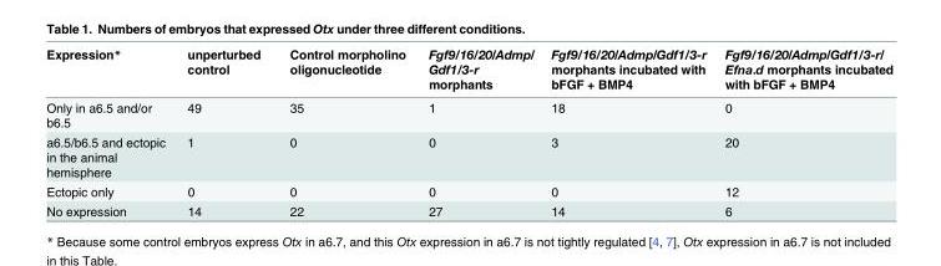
<table><thead><tr><td>Expression*</td><td>unperturbed control</td><td>Control morpholino oligonucleotide</td><td>Fgf9/16/20/Admp/ Gdf1/3-r morphants</td><td>Fgf9/16/20/Admp/Gdf1/3-r morphants incubated with bFGF + BMP4</td><td>Fgf9/16/20/Admp/Gdf1/3-r/ Efna.d morphants incubated with bFGF + BMP4</td></tr></thead><tbody><tr><td>Only in a6.5 and/or b6.5</td><td>49</td><td>35</td><td>1</td><td>18</td><td>0</td></tr><tr><td>a6.5/b6.5 and ectopic in the animal hemisphere</td><td>1</td><td>0</td><td>0</td><td>3</td><td>20</td></tr><tr><td>Ectopic only</td><td>0</td><td>0</td><td>0</td><td>0</td><td>12</td></tr><tr><td>No expression</td><td>14</td><td>22</td><td>27</td><td>14</td><td>6</td></tr></tbody></table>